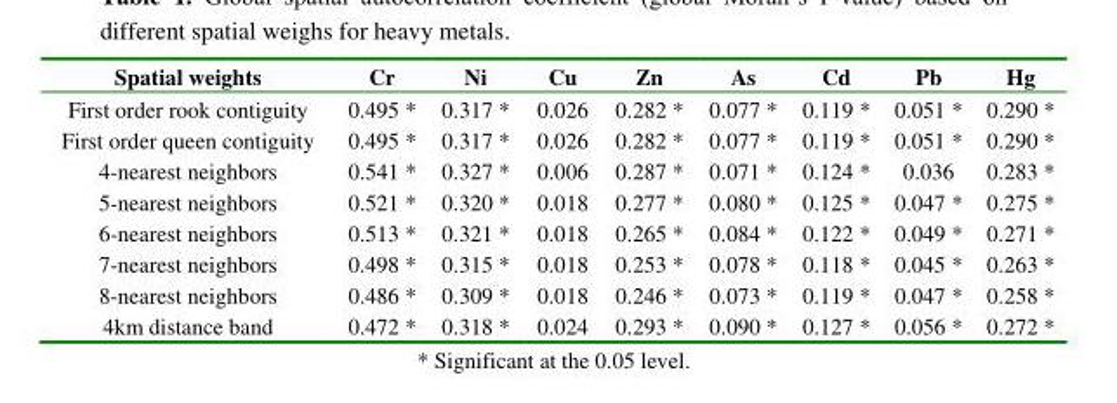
<table><thead><tr><td>Spatial weights</td><td>Cr</td><td>Ni</td><td>Cu</td><td>Zn</td><td>As</td><td>Cd</td><td>Pb</td><td>Hg</td></tr></thead><tbody><tr><td>First order rook contiguity</td><td>0.495 *</td><td>0.317 *</td><td>0.026</td><td>0.282 *</td><td>0.077 *</td><td>0.119 *</td><td>0.051 *</td><td>0.290 *</td></tr><tr><td>First order queen contiguity</td><td>0.495 *</td><td>0.317 *</td><td>0.026</td><td>0.282 *</td><td>0.077 *</td><td>0.119 *</td><td>0.051 *</td><td>0.290 *</td></tr><tr><td>4-nearest neighbors</td><td>0.541 *</td><td>0.327 *</td><td>0.006</td><td>0.287 *</td><td>0.071 *</td><td>0.124 *</td><td>0.036</td><td>0.283 *</td></tr><tr><td>5-nearest neighbors</td><td>0.521 *</td><td>0.320 *</td><td>0.018</td><td>0.277 *</td><td>0.080 *</td><td>0.125 *</td><td>0.047 *</td><td>0.275 *</td></tr><tr><td>6-nearest neighbors</td><td>0.513 *</td><td>0.321 *</td><td>0.018</td><td>0.265 *</td><td>0.084 *</td><td>0.122 *</td><td>0.049 *</td><td>0.271 *</td></tr><tr><td>7-nearest neighbors</td><td>0.498 *</td><td>0.315 *</td><td>0.018</td><td>0.253 *</td><td>0.078 *</td><td>0.118 *</td><td>0.045 *</td><td>0.263 *</td></tr><tr><td>8-nearest neighbors</td><td>0.486 *</td><td>0.309 *</td><td>0.018</td><td>0.246 *</td><td>0.073 *</td><td>0.119 *</td><td>0.047 *</td><td>0.258 *</td></tr><tr><td>4km distance band</td><td>0.472 *</td><td>0.318 *</td><td>0.024</td><td>0.293 *</td><td>0.090 *</td><td>0.127 *</td><td>0.056 *</td><td>0.272 *</td></tr></tbody></table>